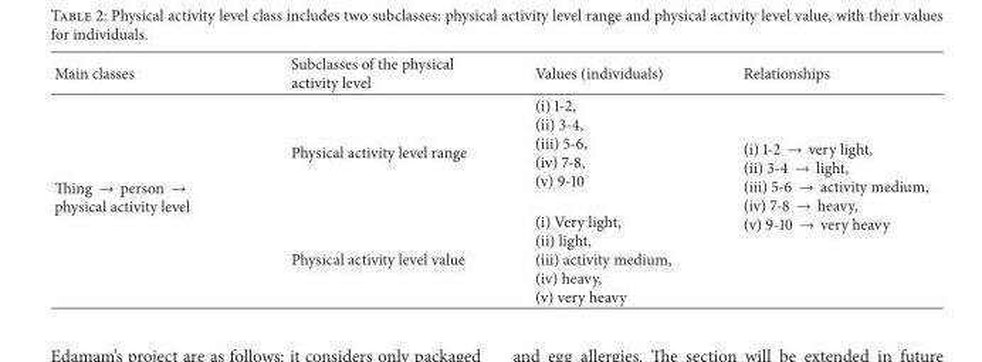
<table><thead><tr><td>Main classes</td><td>Subclasses of the physical activity level</td><td>Values (individuals)</td><td>Relationships</td></tr></thead><tbody><tr><td rowspan="2">Thing → person → physical activity level</td><td>Physical activity level range</td><td>(i) 1-2, (ii) 3-4, (iii) 5-6, (iv) 7-8, (v) 9-10</td><td rowspan="2">(i) 1-2 → very light, (ii) 3-4 → light, (iii) 5-6 → activity medium, (iv) 7-8 → heavy, (v) 9-10 → very heavy</td></tr><tr><td>Physical activity level value</td><td>(i) Very light, (ii) light, (iii) activity medium, (iv) heavy, (v) very heavy</td></tr></tbody></table>